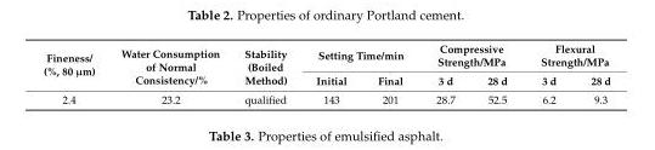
<table><thead><tr><td rowspan="2">Fineness/ (%, 80 µm)</td><td rowspan="2">Water Consumption of Normal Consistency/%</td><td rowspan="2">Stability (Boiled Method)</td><td colspan="2">Setting Time/min</td><td colspan="2">Compressive Strength/MPa</td><td colspan="2">Flexural Strength/MPa</td></tr><tr><td>Initial</td><td>Final</td><td>3 d</td><td>28 d</td><td>3 d</td><td>28 d</td></tr></thead><tbody><tr><td>2.4</td><td>23.2</td><td>qualified</td><td>143</td><td>201</td><td>28.7</td><td>52.5</td><td>6.2</td><td>9.3</td></tr></tbody></table>